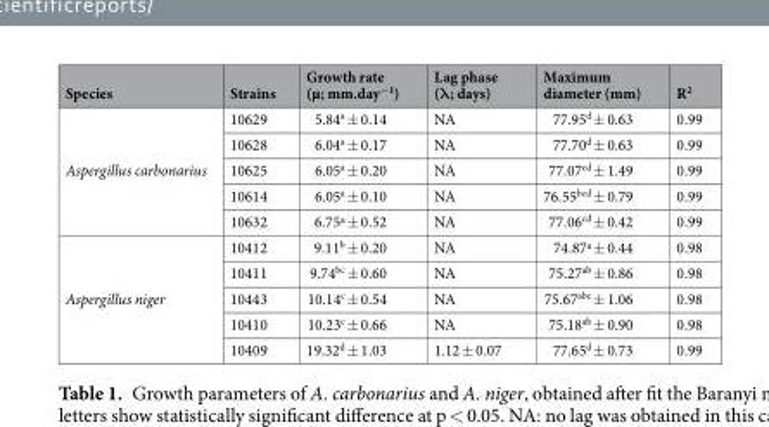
<table><thead><tr><td>Species</td><td>Strains</td><td>Growth rate (µ; mm.day<sup>−1</sup>)</td><td>Lag phase (λ; days)</td><td>Maximum diameter (mm)</td><td>R<sup>2</sup></td></tr></thead><tbody><tr><td rowspan="5">Aspergillus carbonarius</td><td>10629</td><td>5.84<sup>a</sup> ± 0.14</td><td>NA</td><td>77.95<sup>d</sup> ± 0.63</td><td>0.99</td></tr><tr><td>10628</td><td>6.04<sup>a</sup> ± 0.17</td><td>NA</td><td>77.70<sup>d</sup> ± 0.63</td><td>0.99</td></tr><tr><td>10625</td><td>6.05<sup>a</sup> ± 0.20</td><td>NA</td><td>77.07<sup>cd</sup> ± 1.49</td><td>0.99</td></tr><tr><td>10614</td><td>6.05<sup>a</sup> ± 0.10</td><td>NA</td><td>76.55<sup>bcd</sup> ± 0.79</td><td>0.99</td></tr><tr><td>10632</td><td>6.75ª ± 0.52</td><td>NA</td><td>77.06<sup>cd</sup> ± 0.42</td><td>0.99</td></tr><tr><td rowspan="5">Aspergillus niger</td><td>10412</td><td>9.11<sup>b</sup> ± 0.20</td><td>NA</td><td>74.87ª ± 0.44</td><td>0.98</td></tr><tr><td>10411</td><td>9.74<sup>bc</sup> ± 0.60</td><td>NA</td><td>75.27<sup>ab</sup> ± 0.86</td><td>0.98</td></tr><tr><td>10443</td><td>10.14<sup>c</sup> ± 0.54</td><td>NA</td><td>75.67<sup>abc</sup> ± 1.06</td><td>0.98</td></tr><tr><td>10410</td><td>10.23<sup>c</sup> ± 0.66</td><td>NA</td><td>75.18<sup>ab</sup> ± 0.90</td><td>0.98</td></tr><tr><td>10409</td><td>19.32<sup>d</sup> ± 1.03</td><td>1.12 ± 0.07</td><td>77.65<sup>d</sup> ± 0.73</td><td>0.99</td></tr></tbody></table>